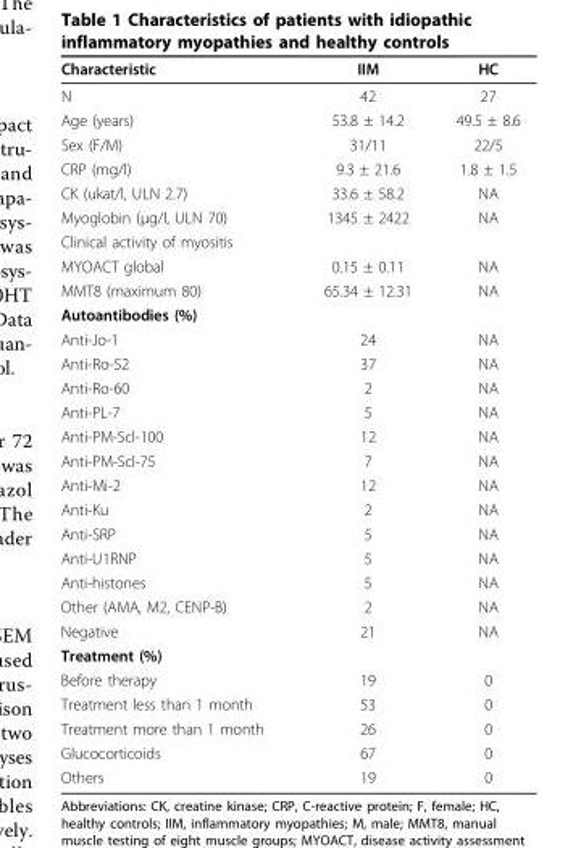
<table><thead><tr><td>Characteristic</td><td>IIM</td><td>HC</td></tr></thead><tbody><tr><td>N</td><td>42</td><td>27</td></tr><tr><td>Age (years)</td><td>53.8 ± 14.2</td><td>49.5 ± 8.6</td></tr><tr><td>Sex (F/M)</td><td>31/11</td><td>22/5</td></tr><tr><td>CRP (mg/l)</td><td>9.3 ± 21.6</td><td>1.8 ± 1.5</td></tr><tr><td>CK (ukat/l, ULN 2.7)</td><td>33.6 ± 58.2</td><td>NA</td></tr><tr><td>Myoglobin (μg/l, ULN 70)</td><td>1345 ± 2422</td><td>NA</td></tr><tr><td colspan="3">Clinical activity of myositis</td></tr><tr><td>MYOACT global</td><td>0.15 ± 0.11</td><td>NA</td></tr><tr><td>MMT8 (maximum 80)</td><td>65.34 ± 12.31</td><td>NA</td></tr><tr><td colspan="3">Autoantibodies (%)</td></tr><tr><td>Anti-Jo-1</td><td>24</td><td>NA</td></tr><tr><td>Anti-Ro-52</td><td>37</td><td>NA</td></tr><tr><td>Anti-Ro-60</td><td>2</td><td>NA</td></tr><tr><td>Anti-PL-7</td><td>5</td><td>NA</td></tr><tr><td>Anti-PM-Scl-100</td><td>12</td><td>NA</td></tr><tr><td>Anti-PM-Scl-75</td><td>7</td><td>NA</td></tr><tr><td>Anti-Mi-2</td><td>12</td><td>NA</td></tr><tr><td>Anti-Ku</td><td>2</td><td>NA</td></tr><tr><td>Anti-SRP</td><td>5</td><td>NA</td></tr><tr><td>Anti-U1RNP</td><td>5</td><td>NA</td></tr><tr><td>Anti-histones</td><td>5</td><td>NA</td></tr><tr><td>Other (AMA, M2, CENP-B)</td><td>2</td><td>NA</td></tr><tr><td>Negative</td><td>21</td><td>NA</td></tr><tr><td colspan="3">Treatment (%)</td></tr><tr><td>Before therapy</td><td>19</td><td>0</td></tr><tr><td>Treatment less than 1 month</td><td>53</td><td>0</td></tr><tr><td>Treatment more than 1 month</td><td>26</td><td>0</td></tr><tr><td>Glucocorticoids</td><td>67</td><td>0</td></tr><tr><td>Others</td><td>19</td><td>0</td></tr></tbody></table>